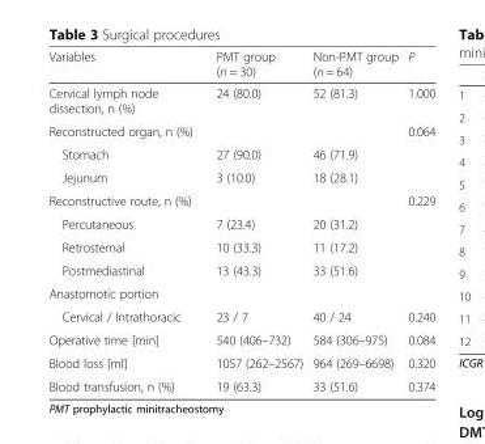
<table><thead><tr><td>Variables</td><td>PMT group (n = 30)</td><td>Non-PMT group (n = 64)</td><td>P</td></tr></thead><tbody><tr><td>Cervical lymph node dissection, n (%)</td><td>24 (80.0)</td><td>52 (81.3)</td><td>1.000</td></tr><tr><td>Reconstructed organ, n (%)</td><td></td><td></td><td>0.064</td></tr><tr><td>Stomach</td><td>27 (90.0)</td><td>46 (71.9)</td><td></td></tr><tr><td>Jejunum</td><td>3 (10.0)</td><td>18 (28.1)</td><td></td></tr><tr><td>Reconstructive route, n (%)</td><td></td><td></td><td>0.229</td></tr><tr><td>Percutaneous</td><td>7 (23.4)</td><td>20 (31.2)</td><td></td></tr><tr><td>Retrosternal</td><td>10 (33.3)</td><td>11 (17.2)</td><td></td></tr><tr><td>Postmediastinal</td><td>13 (43.3)</td><td>33 (51.6)</td><td></td></tr><tr><td colspan="4">Anastomotic portion</td></tr><tr><td>Cervical / Intrathoracic</td><td>23 / 7</td><td>40 / 24</td><td>0.240</td></tr><tr><td>Operative time [min]</td><td>540 (406–732)</td><td>584 (306–975)</td><td>0.084</td></tr><tr><td>Blood loss [ml]</td><td>1057 (262–2567)</td><td>964 (269–6698)</td><td>0.320</td></tr><tr><td>Blood transfusion, n (%)</td><td>19 (63.3)</td><td>33 (51.6)</td><td>0.374</td></tr></tbody></table>